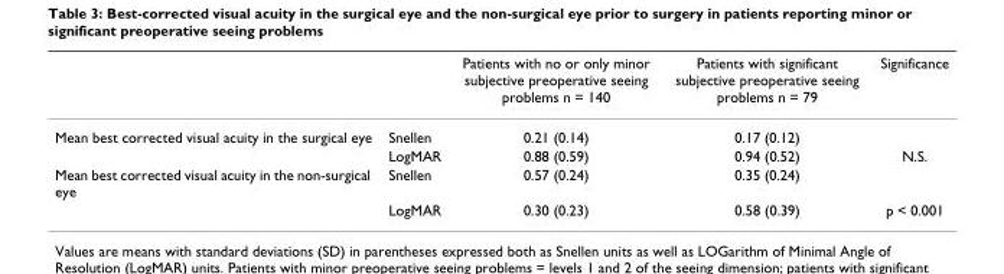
<table><thead><tr><td></td><td></td><td>Patients with no or only minor subjective preoperative seeing problems n = 140</td><td>Patients with significant subjective preoperative seeing problems n = 79</td><td>Significance</td></tr></thead><tbody><tr><td rowspan="2">Mean best corrected visual acuity in the surgical eye</td><td>Snellen</td><td>0.21 (0.14)</td><td>0.17 (0.12)</td><td></td></tr><tr><td>LogMAR</td><td>0.88 (0.59)</td><td>0.94 (0.52)</td><td>N.S.</td></tr><tr><td rowspan="2">Mean best corrected visual acuity in the non-surgical eye</td><td>Snellen</td><td>0.57 (0.24)</td><td>0.35 (0.24)</td><td></td></tr><tr><td>LogMAR</td><td>0.30 (0.23)</td><td>0.58 (0.39)</td><td>p &lt; 0.001</td></tr></tbody></table>